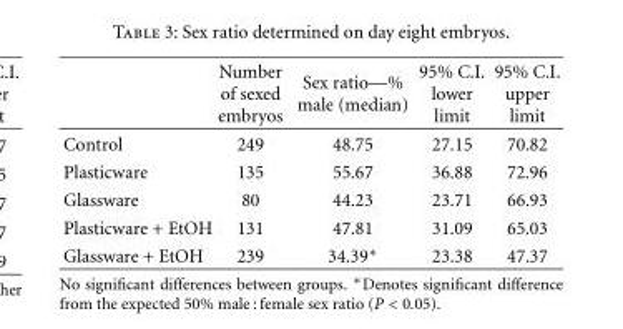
<table><thead><tr><td></td><td>Number of sexed embryos</td><td>Sex ratio—% male (median)</td><td>95% C.I. lower limit</td><td>95% C.I. upper limit</td></tr></thead><tbody><tr><td>Control</td><td>249</td><td>48.75</td><td>27.15</td><td>70.82</td></tr><tr><td>Plasticware</td><td>135</td><td>55.67</td><td>36.88</td><td>72.96</td></tr><tr><td>Glassware</td><td>80</td><td>44.23</td><td>23.71</td><td>66.93</td></tr><tr><td>Plasticware + EtOH</td><td>131</td><td>47.81</td><td>31.09</td><td>65.03</td></tr><tr><td>Glassware + EtOH</td><td>239</td><td>34.39∗</td><td>23.38</td><td>47.37</td></tr></tbody></table>